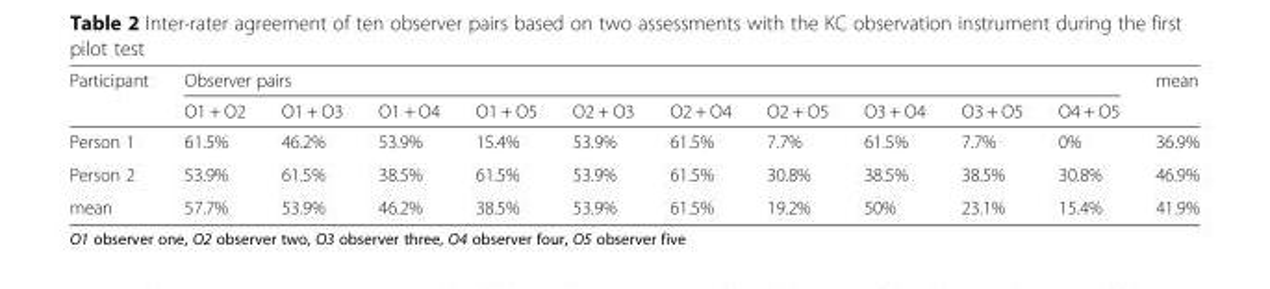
<table><thead><tr><td rowspan="2">Participant</td><td colspan="10">Observer pairs</td><td rowspan="2">mean</td></tr><tr><td>O1 + O2</td><td>O1 + O3</td><td>O1 + O4</td><td>O1 + O5</td><td>O2 + O3</td><td>O2 + O4</td><td>O2 + O5</td><td>O3 + O4</td><td>O3 + O5</td><td>O4 + O5</td></tr></thead><tbody><tr><td>Person 1</td><td>61.5%</td><td>46.2%</td><td>53.9%</td><td>15.4%</td><td>53.9%</td><td>61.5%</td><td>7.7%</td><td>61.5%</td><td>7.7%</td><td>0%</td><td>36.9%</td></tr><tr><td>Person 2</td><td>53.9%</td><td>61.5%</td><td>38.5%</td><td>61.5%</td><td>53.9%</td><td>61.5%</td><td>30.8%</td><td>38.5%</td><td>38.5%</td><td>30.8%</td><td>46.9%</td></tr><tr><td>mean</td><td>57.7%</td><td>53.9%</td><td>46.2%</td><td>38.5%</td><td>53.9%</td><td>61.5%</td><td>19.2%</td><td>50%</td><td>23.1%</td><td>15.4%</td><td>41.9%</td></tr></tbody></table>